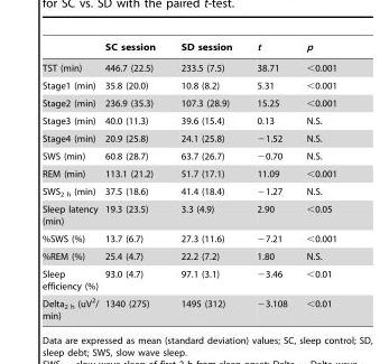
<table><thead><tr><td></td><td>SC session</td><td>SD session</td><td>t</td><td>p</td></tr></thead><tbody><tr><td>TST (min)</td><td>446.7 (22.5)</td><td>233.5 (7.5)</td><td>38.71</td><td>&lt;0.001</td></tr><tr><td>Stage1 (min)</td><td>35.8 (20.0)</td><td>10.8 (8.2)</td><td>5.31</td><td>&lt;0.001</td></tr><tr><td>Stage2 (min)</td><td>236.9 (35.3)</td><td>107.3 (28.9)</td><td>15.25</td><td>&lt;0.001</td></tr><tr><td>Stage3 (min)</td><td>40.0 (11.3)</td><td>39.6 (15.4)</td><td>0.13</td><td>N.S.</td></tr><tr><td>Stage4 (min)</td><td>20.9 (25.8)</td><td>24.1 (25.8)</td><td>−1.52</td><td>N.S.</td></tr><tr><td>SWS (min)</td><td>60.8 (28.7)</td><td>63.7 (26.7)</td><td>−0.70</td><td>N.S.</td></tr><tr><td>REM (min)</td><td>113.1 (21.2)</td><td>51.7 (17.1)</td><td>11.09</td><td>&lt;0.001</td></tr><tr><td>SWS<sub>2 h</sub> (min)</td><td>37.5 (18.6)</td><td>41.4 (18.4)</td><td>−1.27</td><td>N.S.</td></tr><tr><td>Sleep latency (min)</td><td>19.3 (23.5)</td><td>3.3 (4.9)</td><td>2.90</td><td>&lt;0.05</td></tr><tr><td>%SWS (%)</td><td>13.7 (6.7)</td><td>27.3 (11.6)</td><td>−7.21</td><td>&lt;0.001</td></tr><tr><td>%REM (%)</td><td>25.4 (4.7)</td><td>22.2 (7.2)</td><td>1.80</td><td>N.S.</td></tr><tr><td>Sleep efficiency (%)</td><td>93.0 (4.7)</td><td>97.1 (3.1)</td><td>−3.46</td><td>&lt;0.01</td></tr><tr><td>Delta<sub>2 h</sub> (uV<sup>2</sup>/ min)</td><td>1340 (275)</td><td>1495 (312)</td><td>−3.108</td><td>&lt;0.01</td></tr></tbody></table>